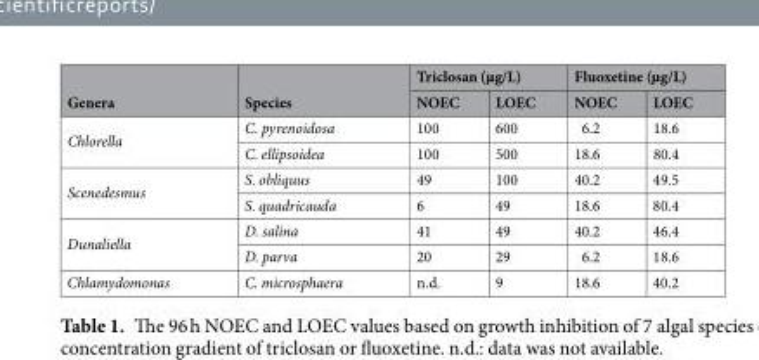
<table><thead><tr><td rowspan="2">Genera</td><td rowspan="2">Species</td><td colspan="2">Triclosan (µg/L)</td><td colspan="2">Fluoxetine (µg/L)</td></tr><tr><td>NOEC</td><td>LOEC</td><td>NOEC</td><td>LOEC</td></tr></thead><tbody><tr><td rowspan="2">Chlorella</td><td>C. pyrenoidosa</td><td>100</td><td>600</td><td>6.2</td><td>18.6</td></tr><tr><td>C. ellipsoidea</td><td>100</td><td>500</td><td>18.6</td><td>80.4</td></tr><tr><td rowspan="2">Scenedesmus</td><td>S. obliquus</td><td>49</td><td>100</td><td>40.2</td><td>49.5</td></tr><tr><td>S. quadricauda</td><td>6</td><td>49</td><td>18.6</td><td>80.4</td></tr><tr><td rowspan="2">Dunaliella</td><td>D. salina</td><td>41</td><td>49</td><td>40.2</td><td>46.4</td></tr><tr><td>D. parva</td><td>20</td><td>29</td><td>6.2</td><td>18.6</td></tr><tr><td>Chlamydomonas</td><td>C. microsphaera</td><td>n.d.</td><td>9</td><td>18.6</td><td>40.2</td></tr></tbody></table>